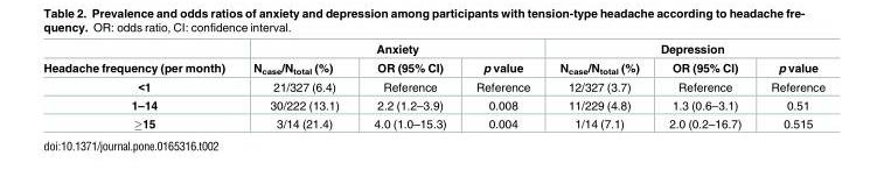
<table><thead><tr><td rowspan="2">Headache frequency (per month)</td><td colspan="3">Anxiety</td><td colspan="3">Depression</td></tr><tr><td>N<sub>case</sub>/N<sub>total</sub> (%)</td><td>OR (95% CI)</td><td>p value</td><td>N<sub>case</sub>/N<sub>total</sub> (%)</td><td>OR (95% CI)</td><td>p value</td></tr></thead><tbody><tr><td>&lt;1</td><td>21/327 (6.4)</td><td>Reference</td><td>Reference</td><td>12/327 (3.7)</td><td>Reference</td><td>Reference</td></tr><tr><td>1–14</td><td>30/222 (13.1)</td><td>2.2 (1.2–3.9)</td><td>0.008</td><td>11/229 (4.8)</td><td>1.3 (0.6–3.1)</td><td>0.51</td></tr><tr><td>≥15</td><td>3/14 (21.4)</td><td>4.0 (1.0–15.3)</td><td>0.004</td><td>1/14 (7.1)</td><td>2.0 (0.2–16.7)</td><td>0.515</td></tr></tbody></table>